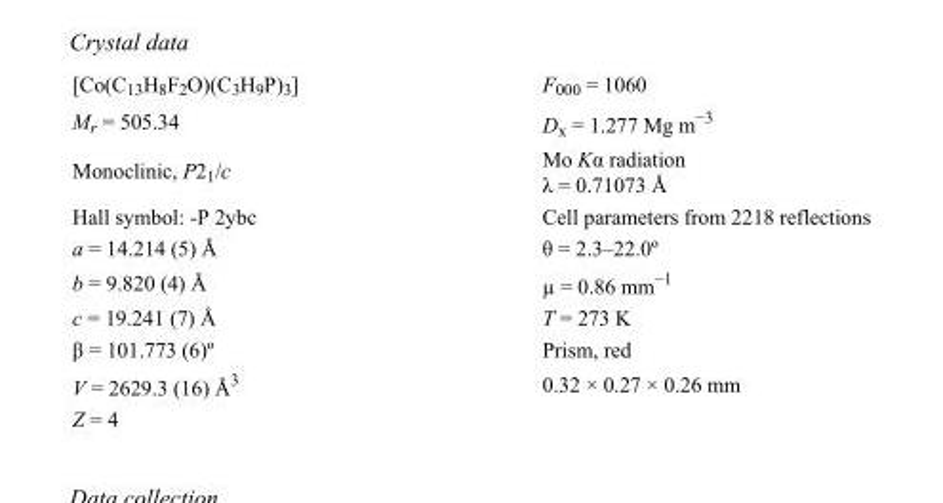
<table><tbody><tr><td>[Co(C<sub>13</sub>H<sub>8</sub>F<sub>2</sub>O)(C<sub>3</sub>H<sub>9</sub>P)<sub>3</sub>]</td><td>F000 = 1060</td></tr><tr><td>M<sub>r</sub> = 505.34</td><td>D<sub>x</sub> = 1.277 Mg m<sup>−3</sup></td></tr><tr><td>Monoclinic, P2<sub>1</sub>/c</td><td>Mo Kα radiation λ = 0.71073 Å</td></tr><tr><td>Hall symbol: -P 2ybc</td><td>Cell parameters from 2218 reflections</td></tr><tr><td>a = 14.214 (5) Å</td><td>θ = 2.3–22.0º</td></tr><tr><td>b = 9.820 (4) Å</td><td>µ = 0.86 mm<sup>−1</sup></td></tr><tr><td>c = 19.241 (7) Å</td><td>T = 273 K</td></tr><tr><td>β = 101.773 (6)º</td><td>Prism, red</td></tr><tr><td>V = 2629.3 (16) Å<sup>3</sup></td><td>0.32 × 0.27 × 0.26 mm</td></tr><tr><td>Z = 4</td><td></td></tr></tbody></table>